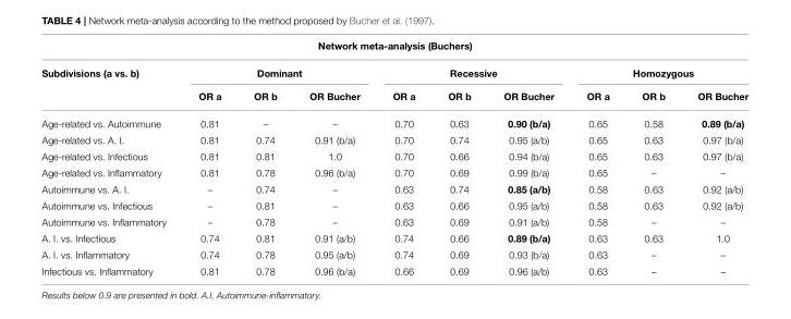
<table><thead><tr><td colspan="10">Network meta-analysis (Buchers)</td></tr><tr><td rowspan="2">Subdivisions (a vs. b)</td><td colspan="3">Dominant</td><td colspan="3">Recessive</td><td colspan="3">Homozygous</td></tr><tr><td>OR a</td><td>OR b</td><td>OR Bucher</td><td>OR a</td><td>OR b</td><td>OR Bucher</td><td>OR a</td><td>OR b</td><td>OR Bucher</td></tr></thead><tbody><tr><td>Age-related vs. Autoimmune</td><td>0.81</td><td>–</td><td>–</td><td>0.70</td><td>0.63</td><td>0.90 (b/a)</td><td>0.65</td><td>0.58</td><td>0.89 (b/a)</td></tr><tr><td>Age-related vs. A. I.</td><td>0.81</td><td>0.74</td><td>0.91 (b/a)</td><td>0.70</td><td>0.74</td><td>0.95 (a/b)</td><td>0.65</td><td>0.63</td><td>0.97 (b/a)</td></tr><tr><td>Age-related vs. Infectious</td><td>0.81</td><td>0.81</td><td>1.0</td><td>0.70</td><td>0.66</td><td>0.94 (b/a)</td><td>0.65</td><td>0.63</td><td>0.97 (b/a)</td></tr><tr><td>Age-related vs. Inflammatory</td><td>0.81</td><td>0.78</td><td>0.96 (b/a)</td><td>0.70</td><td>0.69</td><td>0.99 (b/a)</td><td>0.65</td><td>–</td><td>–</td></tr><tr><td>Autoimmune vs. A. I.</td><td>–</td><td>0.74</td><td>–</td><td>0.63</td><td>0.74</td><td>0.85 (a/b)</td><td>0.58</td><td>0.63</td><td>0.92 (a/b)</td></tr><tr><td>Autoimmune vs. Infectious</td><td>–</td><td>0.81</td><td>–</td><td>0.63</td><td>0.66</td><td>0.95 (a/b)</td><td>0.58</td><td>0.63</td><td>0.92 (a/b)</td></tr><tr><td>Autoimmune vs. Inflammatory</td><td>–</td><td>0.78</td><td>–</td><td>0.63</td><td>0.69</td><td>0.91 (a/b)</td><td>0.58</td><td>–</td><td>–</td></tr><tr><td>A. I. vs. Infectious</td><td>0.74</td><td>0.81</td><td>0.91 (a/b)</td><td>0.74</td><td>0.66</td><td>0.89 (b/a)</td><td>0.63</td><td>0.63</td><td>1.0</td></tr><tr><td>A. I. vs. Inflammatory</td><td>0.74</td><td>0.78</td><td>0.95 (a/b)</td><td>0.74</td><td>0.69</td><td>0.93 (b/a)</td><td>0.63</td><td>–</td><td>–</td></tr><tr><td>Infectious vs. Inflammatory</td><td>0.81</td><td>0.78</td><td>0.96 (b/a)</td><td>0.66</td><td>0.69</td><td>0.96 (a/b)</td><td>0.63</td><td>–</td><td>–</td></tr></tbody></table>